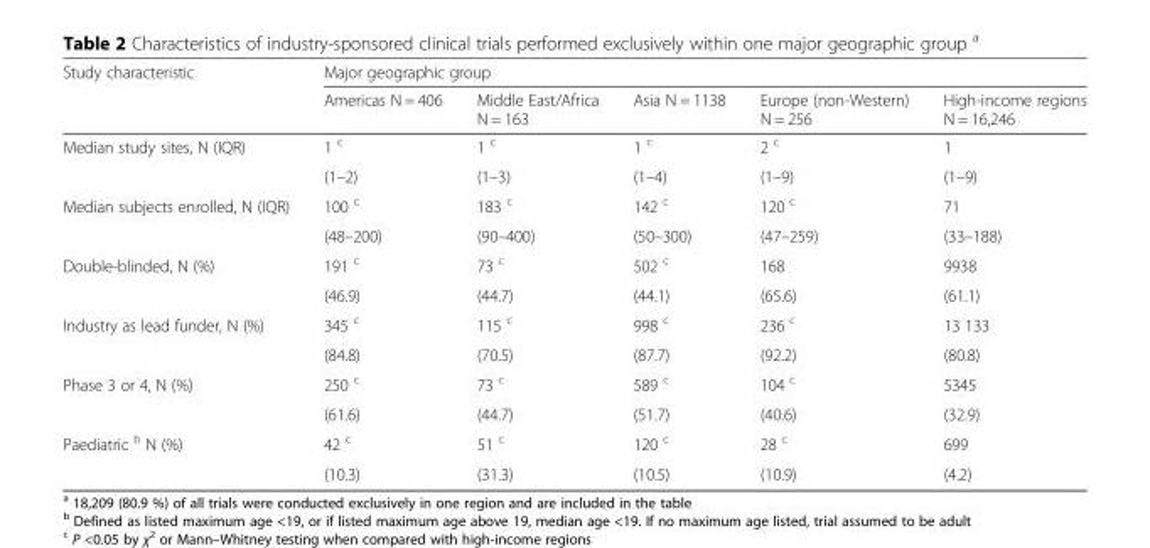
<table><thead><tr><td rowspan="2">Study characteristic</td><td colspan="5">Major geographic group</td></tr><tr><td>Americas N = 406</td><td>Middle East/Africa N = 163</td><td>Asia N = 1138</td><td>Europe (non-Western) N = 256</td><td>High-income regions N = 16,246</td></tr></thead><tbody><tr><td rowspan="2">Median study sites, N (IQR)</td><td>1 <sup>c</sup></td><td>1 <sup>c</sup></td><td>1 <sup>c</sup></td><td>2 <sup>c</sup></td><td>1</td></tr><tr><td>(1–2)</td><td>(1–3)</td><td>(1–4)</td><td>(1–9)</td><td>(1–9)</td></tr><tr><td rowspan="2">Median subjects enrolled, N (IQR)</td><td>100 <sup>c</sup></td><td>183 <sup>c</sup></td><td>142 <sup>c</sup></td><td>120 <sup>c</sup></td><td>71</td></tr><tr><td>(48–200)</td><td>(90–400)</td><td>(50–300)</td><td>(47–259)</td><td>(33–188)</td></tr><tr><td rowspan="2">Double-blinded, N (%)</td><td>191 <sup>c</sup></td><td>73 <sup>c</sup></td><td>502 <sup>c</sup></td><td>168</td><td>9938</td></tr><tr><td>(46.9)</td><td>(44.7)</td><td>(44.1)</td><td>(65.6)</td><td>(61.1)</td></tr><tr><td rowspan="2">Industry as lead funder, N (%)</td><td>345 <sup>c</sup></td><td>115 <sup>c</sup></td><td>998 <sup>c</sup></td><td>236 <sup>c</sup></td><td>13 133</td></tr><tr><td>(84.8)</td><td>(70.5)</td><td>(87.7)</td><td>(92.2)</td><td>(80.8)</td></tr><tr><td rowspan="2">Phase 3 or 4, N (%)</td><td>250 <sup>c</sup></td><td>73 <sup>c</sup></td><td>589 <sup>c</sup></td><td>104 <sup>c</sup></td><td>5345</td></tr><tr><td>(61.6)</td><td>(44.7)</td><td>(51.7)</td><td>(40.6)</td><td>(32.9)</td></tr><tr><td rowspan="2">Paediatric <sup>b</sup> N (%)</td><td>42 <sup>c</sup></td><td>51 <sup>c</sup></td><td>120 <sup>c</sup></td><td>28 <sup>c</sup></td><td>699</td></tr><tr><td>(10.3)</td><td>(31.3)</td><td>(10.5)</td><td>(10.9)</td><td>(4.2)</td></tr></tbody></table>